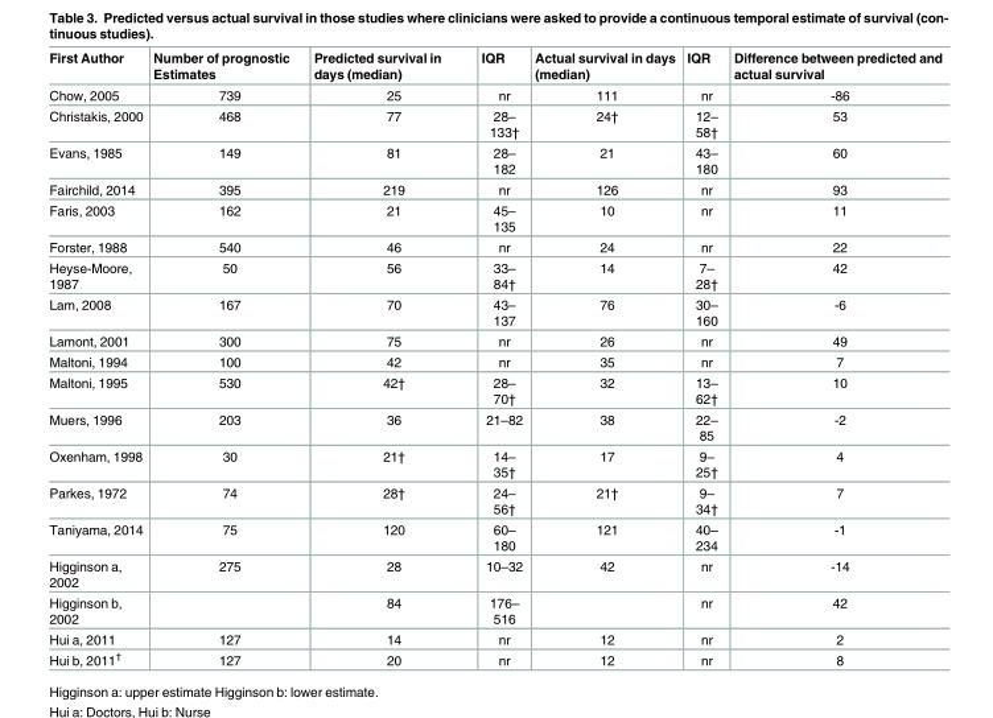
<table><thead><tr><td>First Author</td><td>Number of prognostic Estimates</td><td>Predicted survival in days (median)</td><td>IQR</td><td>Actual survival in days (median)</td><td>IQR</td><td>Difference between predicted and actual survival</td></tr></thead><tbody><tr><td>Chow, 2005</td><td>739</td><td>25</td><td>nr</td><td>111</td><td>nr</td><td>-86</td></tr><tr><td>Christakis, 2000</td><td>468</td><td>77</td><td>28– 133†</td><td>24†</td><td>12– 58†</td><td>53</td></tr><tr><td>Evans, 1985</td><td>149</td><td>81</td><td>28– 182</td><td>21</td><td>43– 180</td><td>60</td></tr><tr><td>Fairchild, 2014</td><td>395</td><td>219</td><td>nr</td><td>126</td><td>nr</td><td>93</td></tr><tr><td>Faris, 2003</td><td>162</td><td>21</td><td>45– 135</td><td>10</td><td>nr</td><td>11</td></tr><tr><td>Forster, 1988</td><td>540</td><td>46</td><td>nr</td><td>24</td><td>nr</td><td>22</td></tr><tr><td>Heyse-Moore, 1987</td><td>50</td><td>56</td><td>33– 84†</td><td>14</td><td>7– 28†</td><td>42</td></tr><tr><td>Lam, 2008</td><td>167</td><td>70</td><td>43– 137</td><td>76</td><td>30– 160</td><td>-6</td></tr><tr><td>Lamont, 2001</td><td>300</td><td>75</td><td>nr</td><td>26</td><td>nr</td><td>49</td></tr><tr><td>Maltoni, 1994</td><td>100</td><td>42</td><td>nr</td><td>35</td><td>nr</td><td>7</td></tr><tr><td>Maltoni, 1995</td><td>530</td><td>42†</td><td>28– 70†</td><td>32</td><td>13– 62†</td><td>10</td></tr><tr><td>Muers, 1996</td><td>203</td><td>36</td><td>21–82</td><td>38</td><td>22– 85</td><td>-2</td></tr><tr><td>Oxenham, 1998</td><td>30</td><td>21†</td><td>14– 35†</td><td>17</td><td>9– 25†</td><td>4</td></tr><tr><td>Parkes, 1972</td><td>74</td><td>28†</td><td>24– 56†</td><td>21†</td><td>9– 34†</td><td>7</td></tr><tr><td>Taniyama, 2014</td><td>75</td><td>120</td><td>60– 180</td><td>121</td><td>40– 234</td><td>-1</td></tr><tr><td>Higginson a, 2002</td><td>275</td><td>28</td><td>10–32</td><td>42</td><td>nr</td><td>-14</td></tr><tr><td>Higginson b, 2002</td><td></td><td>84</td><td>176– 516</td><td></td><td>nr</td><td>42</td></tr><tr><td>Hui a, 2011</td><td>127</td><td>14</td><td>nr</td><td>12</td><td>nr</td><td>2</td></tr><tr><td>Hui b, 2011<sup>†</sup></td><td>127</td><td>20</td><td>nr</td><td>12</td><td>nr</td><td>8</td></tr></tbody></table>